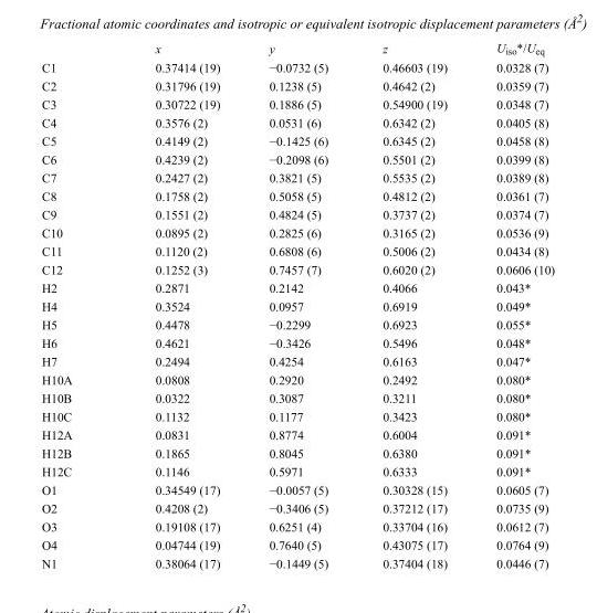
<table><thead><tr><td></td><td>x</td><td>y</td><td>z</td><td>U<sub>iso</sub>*/U<sub>eq</sub></td></tr></thead><tbody><tr><td>C1</td><td>0.37414 (19)</td><td>−0.0732 (5)</td><td>0.46603 (19)</td><td>0.0328 (7)</td></tr><tr><td>C2</td><td>0.31796 (19)</td><td>0.1238 (5)</td><td>0.4642 (2)</td><td>0.0359 (7)</td></tr><tr><td>C3</td><td>0.30722 (19)</td><td>0.1886 (5)</td><td>0.54900 (19)</td><td>0.0348 (7)</td></tr><tr><td>C4</td><td>0.3576 (2)</td><td>0.0531 (6)</td><td>0.6342 (2)</td><td>0.0405 (8)</td></tr><tr><td>C5</td><td>0.4149 (2)</td><td>−0.1425 (6)</td><td>0.6345 (2)</td><td>0.0458 (8)</td></tr><tr><td>C6</td><td>0.4239 (2)</td><td>−0.2098 (6)</td><td>0.5501 (2)</td><td>0.0399 (8)</td></tr><tr><td>C7</td><td>0.2427 (2)</td><td>0.3821 (5)</td><td>0.5535 (2)</td><td>0.0389 (8)</td></tr><tr><td>C8</td><td>0.1758 (2)</td><td>0.5058 (5)</td><td>0.4812 (2)</td><td>0.0361 (7)</td></tr><tr><td>C9</td><td>0.1551 (2)</td><td>0.4824 (5)</td><td>0.3737 (2)</td><td>0.0374 (7)</td></tr><tr><td>C10</td><td>0.0895 (2)</td><td>0.2825 (6)</td><td>0.3165 (2)</td><td>0.0536 (9)</td></tr><tr><td>C11</td><td>0.1120 (2)</td><td>0.6808 (6)</td><td>0.5006 (2)</td><td>0.0434 (8)</td></tr><tr><td>C12</td><td>0.1252 (3)</td><td>0.7457 (7)</td><td>0.6020 (2)</td><td>0.0606 (10)</td></tr><tr><td>H2</td><td>0.2871</td><td>0.2142</td><td>0.4066</td><td>0.043*</td></tr><tr><td>H4</td><td>0.3524</td><td>0.0957</td><td>0.6919</td><td>0.049*</td></tr><tr><td>H5</td><td>0.4478</td><td>−0.2299</td><td>0.6923</td><td>0.055*</td></tr><tr><td>H6</td><td>0.4621</td><td>−0.3426</td><td>0.5496</td><td>0.048*</td></tr><tr><td>H7</td><td>0.2494</td><td>0.4254</td><td>0.6163</td><td>0.047*</td></tr><tr><td>H10A</td><td>0.0808</td><td>0.2920</td><td>0.2492</td><td>0.080*</td></tr><tr><td>H10B</td><td>0.0322</td><td>0.3087</td><td>0.3211</td><td>0.080*</td></tr><tr><td>H10C</td><td>0.1132</td><td>0.1177</td><td>0.3423</td><td>0.080*</td></tr><tr><td>H12A</td><td>0.0831</td><td>0.8774</td><td>0.6004</td><td>0.091*</td></tr><tr><td>H12B</td><td>0.1865</td><td>0.8045</td><td>0.6380</td><td>0.091*</td></tr><tr><td>H12C</td><td>0.1146</td><td>0.5971</td><td>0.6333</td><td>0.091*</td></tr><tr><td>O1</td><td>0.34549 (17)</td><td>−0.0057 (5)</td><td>0.30328 (15)</td><td>0.0605 (7)</td></tr><tr><td>O2</td><td>0.4208 (2)</td><td>−0.3406 (5)</td><td>0.37212 (17)</td><td>0.0735 (9)</td></tr><tr><td>O3</td><td>0.19108 (17)</td><td>0.6251 (4)</td><td>0.33704 (16)</td><td>0.0612 (7)</td></tr><tr><td>O4</td><td>0.04744 (19)</td><td>0.7640 (5)</td><td>0.43075 (17)</td><td>0.0764 (9)</td></tr><tr><td>N1</td><td>0.38064 (17)</td><td>−0.1449 (5)</td><td>0.37404 (18)</td><td>0.0446 (7)</td></tr></tbody></table>